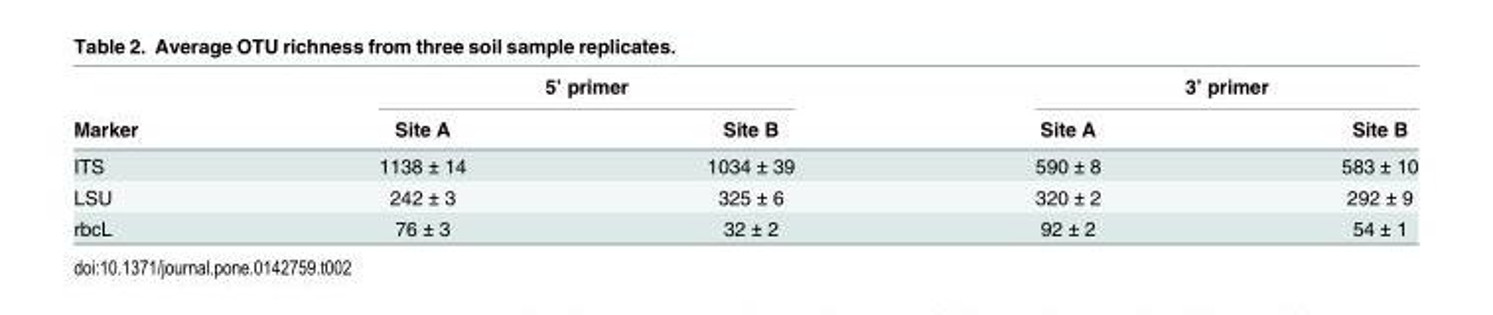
<table><thead><tr><td rowspan="2">Marker</td><td colspan="2">5’ primer</td><td colspan="2">3’ primer</td></tr><tr><td>Site A</td><td>Site B</td><td>Site A</td><td>Site B</td></tr></thead><tbody><tr><td>ITS</td><td>1138 ± 14</td><td>1034 ± 39</td><td>590 ± 8</td><td>583 ± 10</td></tr><tr><td>LSU</td><td>242 ± 3</td><td>325 ± 6</td><td>320 ± 2</td><td>292 ± 9</td></tr><tr><td>rbcL</td><td>76 ± 3</td><td>32 ± 2</td><td>92 ± 2</td><td>54 ± 1</td></tr></tbody></table>